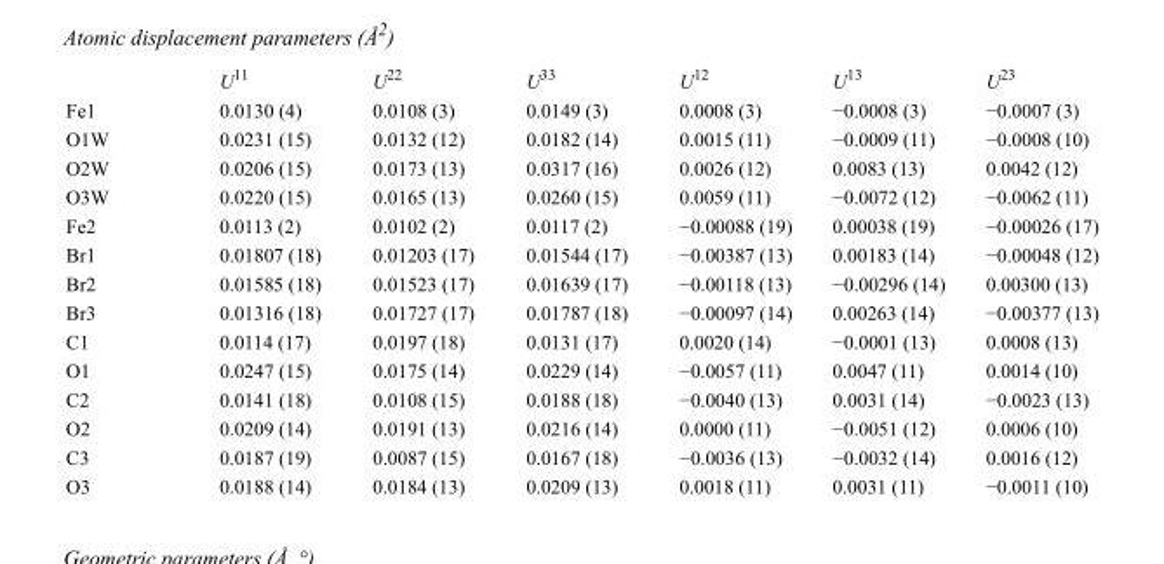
<table><thead><tr><td></td><td>U<sup>11</sup></td><td>U<sup>22</sup></td><td>U<sup>33</sup></td><td>U<sup>12</sup></td><td>U<sup>13</sup></td><td>U<sup>23</sup></td></tr></thead><tbody><tr><td>Fe1</td><td>0.0130 (4)</td><td>0.0108 (3)</td><td>0.0149 (3)</td><td>0.0008 (3)</td><td>−0.0008 (3)</td><td>−0.0007 (3)</td></tr><tr><td>O1W</td><td>0.0231 (15)</td><td>0.0132 (12)</td><td>0.0182 (14)</td><td>0.0015 (11)</td><td>−0.0009 (11)</td><td>−0.0008 (10)</td></tr><tr><td>O2W</td><td>0.0206 (15)</td><td>0.0173 (13)</td><td>0.0317 (16)</td><td>0.0026 (12)</td><td>0.0083 (13)</td><td>0.0042 (12)</td></tr><tr><td>O3W</td><td>0.0220 (15)</td><td>0.0165 (13)</td><td>0.0260 (15)</td><td>0.0059 (11)</td><td>−0.0072 (12)</td><td>−0.0062 (11)</td></tr><tr><td>Fe2</td><td>0.0113 (2)</td><td>0.0102 (2)</td><td>0.0117 (2)</td><td>−0.00088 (19)</td><td>0.00038 (19)</td><td>−0.00026 (17)</td></tr><tr><td>Br1</td><td>0.01807 (18)</td><td>0.01203 (17)</td><td>0.01544 (17)</td><td>−0.00387 (13)</td><td>0.00183 (14)</td><td>−0.00048 (12)</td></tr><tr><td>Br2</td><td>0.01585 (18)</td><td>0.01523 (17)</td><td>0.01639 (17)</td><td>−0.00118 (13)</td><td>−0.00296 (14)</td><td>0.00300 (13)</td></tr><tr><td>Br3</td><td>0.01316 (18)</td><td>0.01727 (17)</td><td>0.01787 (18)</td><td>−0.00097 (14)</td><td>0.00263 (14)</td><td>−0.00377 (13)</td></tr><tr><td>C1</td><td>0.0114 (17)</td><td>0.0197 (18)</td><td>0.0131 (17)</td><td>0.0020 (14)</td><td>−0.0001 (13)</td><td>0.0008 (13)</td></tr><tr><td>O1</td><td>0.0247 (15)</td><td>0.0175 (14)</td><td>0.0229 (14)</td><td>−0.0057 (11)</td><td>0.0047 (11)</td><td>0.0014 (10)</td></tr><tr><td>C2</td><td>0.0141 (18)</td><td>0.0108 (15)</td><td>0.0188 (18)</td><td>−0.0040 (13)</td><td>0.0031 (14)</td><td>−0.0023 (13)</td></tr><tr><td>O2</td><td>0.0209 (14)</td><td>0.0191 (13)</td><td>0.0216 (14)</td><td>0.0000 (11)</td><td>−0.0051 (12)</td><td>0.0006 (10)</td></tr><tr><td>C3</td><td>0.0187 (19)</td><td>0.0087 (15)</td><td>0.0167 (18)</td><td>−0.0036 (13)</td><td>−0.0032 (14)</td><td>0.0016 (12)</td></tr><tr><td>O3</td><td>0.0188 (14)</td><td>0.0184 (13)</td><td>0.0209 (13)</td><td>0.0018 (11)</td><td>0.0031 (11)</td><td>−0.0011 (10)</td></tr></tbody></table>